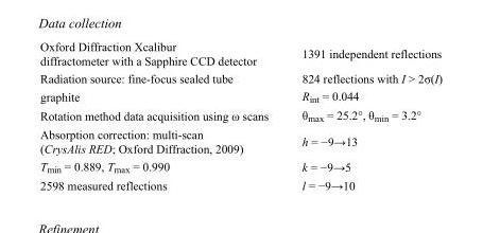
<table><tbody><tr><td>Oxford Diffraction Xcalibur diffractometer with a Sapphire CCD detector</td><td>1391 independent reflections</td></tr><tr><td>Radiation source: fine-focus sealed tube</td><td>824 reflections with I &gt; 2σ(I)</td></tr><tr><td>graphite</td><td>R<sub>int</sub> = 0.044</td></tr><tr><td>Rotation method data acquisition using ω scans</td><td>θ<sub>max</sub> = 25.2°, θ<sub>min</sub> = 3.2°</td></tr><tr><td>Absorption correction: multi-scan (CrysAlis RED; Oxford Diffraction, 2009)</td><td>h = −9→13</td></tr><tr><td>T<sub>min</sub> = 0.889, T<sub>max</sub> = 0.990</td><td>k = −9→5</td></tr><tr><td>2598 measured reflections</td><td>l = −9→10</td></tr></tbody></table>